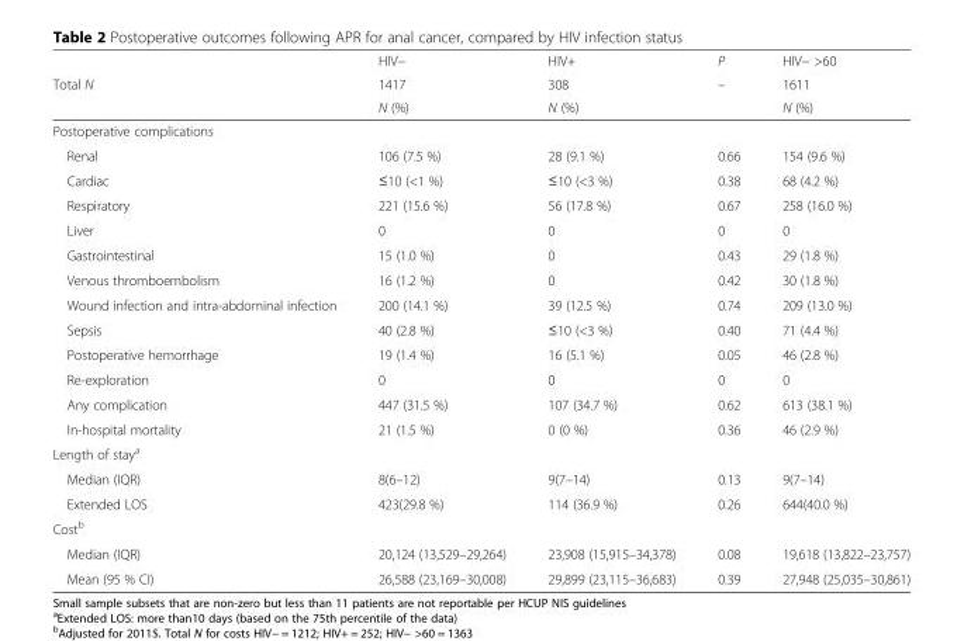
<table><thead><tr><td rowspan="3">Total N</td><td rowspan="3">HIV− 1417 N (%)</td><td rowspan="3">HIV+ 308 N (%)</td><td rowspan="3">P –</td><td rowspan="3">HIV− &gt;60 1611 N (%)</td></tr><tr></tr><tr></tr></thead><tbody><tr><td colspan="5">Postoperative complications</td></tr><tr><td>Renal</td><td>106 (7.5 %)</td><td>28 (9.1 %)</td><td>0.66</td><td>154 (9.6 %)</td></tr><tr><td>Cardiac</td><td>≤10 (&lt;1 %)</td><td>≤10 (&lt;3 %)</td><td>0.38</td><td>68 (4.2 %)</td></tr><tr><td>Respiratory</td><td>221 (15.6 %)</td><td>56 (17.8 %)</td><td>0.67</td><td>258 (16.0 %)</td></tr><tr><td>Liver</td><td>0</td><td>0</td><td>0</td><td>0</td></tr><tr><td>Gastrointestinal</td><td>15 (1.0 %)</td><td>0</td><td>0.43</td><td>29 (1.8 %)</td></tr><tr><td>Venous thromboembolism</td><td>16 (1.2 %)</td><td>0</td><td>0.42</td><td>30 (1.8 %)</td></tr><tr><td>Wound infection and intra-abdominal infection</td><td>200 (14.1 %)</td><td>39 (12.5 %)</td><td>0.74</td><td>209 (13.0 %)</td></tr><tr><td>Sepsis</td><td>40 (2.8 %)</td><td>≤10 (&lt;3 %)</td><td>0.40</td><td>71 (4.4 %)</td></tr><tr><td>Postoperative hemorrhage</td><td>19 (1.4 %)</td><td>16 (5.1 %)</td><td>0.05</td><td>46 (2.8 %)</td></tr><tr><td>Re-exploration</td><td>0</td><td>0</td><td>0</td><td>0</td></tr><tr><td>Any complication</td><td>447 (31.5 %)</td><td>107 (34.7 %)</td><td>0.62</td><td>613 (38.1 %)</td></tr><tr><td>In-hospital mortality</td><td>21 (1.5 %)</td><td>0 (0 %)</td><td>0.36</td><td>46 (2.9 %)</td></tr><tr><td colspan="5">Length of stay<sup>a</sup></td></tr><tr><td>Median (IQR)</td><td>8(6–12)</td><td>9(7–14)</td><td>0.13</td><td>9(7–14)</td></tr><tr><td>Extended LOS</td><td>423(29.8 %)</td><td>114 (36.9 %)</td><td>0.26</td><td>644(40.0 %)</td></tr><tr><td colspan="5">Cost<sup>b</sup></td></tr><tr><td>Median (IQR)</td><td>20,124 (13,529–29,264)</td><td>23,908 (15,915–34,378)</td><td>0.08</td><td>19,618 (13,822–23,757)</td></tr><tr><td>Mean (95 % CI)</td><td>26,588 (23,169–30,008)</td><td>29,899 (23,115–36,683)</td><td>0.39</td><td>27,948 (25,035–30,861)</td></tr></tbody></table>